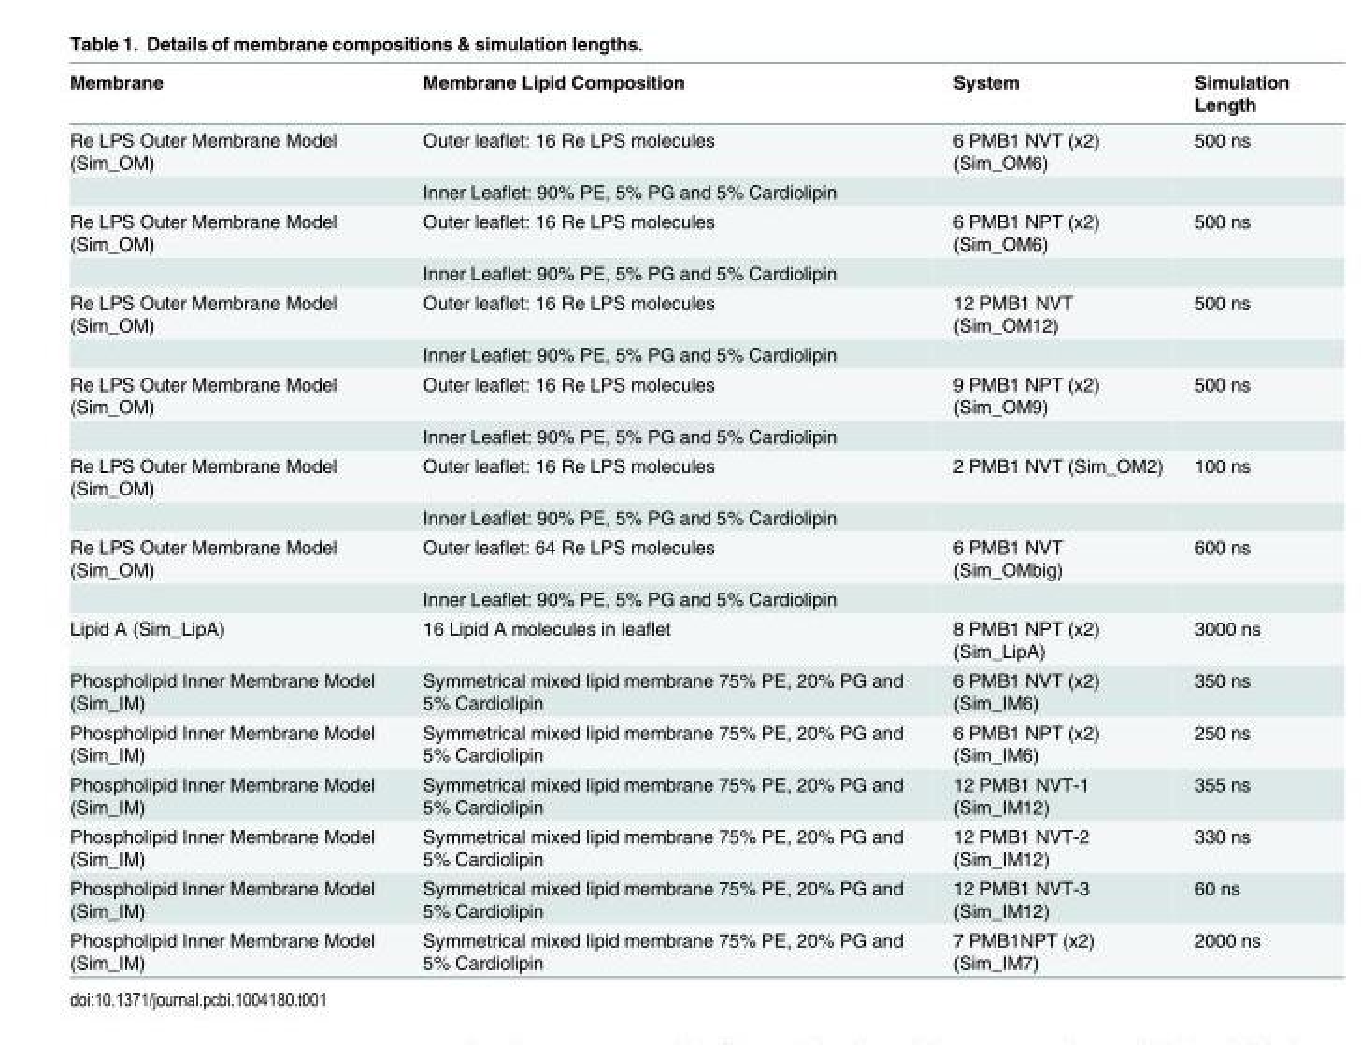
<table><thead><tr><td>Membrane</td><td>Membrane Lipid Composition</td><td>System</td><td>Simulation Length</td></tr></thead><tbody><tr><td rowspan="2">Re LPS Outer Membrane Model (Sim_OM)</td><td>Outer leaflet: 16 Re LPS molecules</td><td>6 PMB1 NVT (x2) (Sim_OM6)</td><td>500 ns</td></tr><tr><td>Inner Leaflet: 90% PE, 5% PG and 5% Cardiolipin</td><td></td><td></td></tr><tr><td rowspan="2">Re LPS Outer Membrane Model (Sim_OM)</td><td>Outer leaflet: 16 Re LPS molecules</td><td>6 PMB1 NPT (x2) (Sim_OM6)</td><td>500 ns</td></tr><tr><td>Inner Leaflet: 90% PE, 5% PG and 5% Cardiolipin</td><td></td><td></td></tr><tr><td rowspan="2">Re LPS Outer Membrane Model (Sim_OM)</td><td>Outer leaflet: 16 Re LPS molecules</td><td>12 PMB1 NVT (Sim_OM12)</td><td>500 ns</td></tr><tr><td>Inner Leaflet: 90% PE, 5% PG and 5% Cardiolipin</td><td></td><td></td></tr><tr><td rowspan="2">Re LPS Outer Membrane Model (Sim_OM)</td><td>Outer leaflet: 16 Re LPS molecules</td><td>9 PMB1 NPT (x2) (Sim_OM9)</td><td>500 ns</td></tr><tr><td>Inner Leaflet: 90% PE, 5% PG and 5% Cardiolipin</td><td></td><td></td></tr><tr><td rowspan="2">Re LPS Outer Membrane Model (Sim_OM)</td><td>Outer leaflet: 16 Re LPS molecules</td><td>2 PMB1 NVT (Sim_OM2)</td><td>100 ns</td></tr><tr><td>Inner Leaflet: 90% PE, 5% PG and 5% Cardiolipin</td><td></td><td></td></tr><tr><td rowspan="2">Re LPS Outer Membrane Model (Sim_OM)</td><td>Outer leaflet: 64 Re LPS molecules</td><td>6 PMB1 NVT (Sim_OMbig)</td><td>600 ns</td></tr><tr><td>Inner Leaflet: 90% PE, 5% PG and 5% Cardiolipin</td><td></td><td></td></tr><tr><td>Lipid A (Sim_LipA)</td><td>16 Lipid A molecules in leaflet</td><td>8 PMB1 NPT (x2) (Sim_LipA)</td><td>3000 ns</td></tr><tr><td>Phospholipid Inner Membrane Model (Sim_IM)</td><td>Symmetrical mixed lipid membrane 75% PE, 20% PG and 5% Cardiolipin</td><td>6 PMB1 NVT (x2) (Sim_IM6)</td><td>350 ns</td></tr><tr><td>Phospholipid Inner Membrane Model (Sim_IM)</td><td>Symmetrical mixed lipid membrane 75% PE, 20% PG and 5% Cardiolipin</td><td>6 PMB1 NPT (x2) (Sim_IM6)</td><td>250 ns</td></tr><tr><td>Phospholipid Inner Membrane Model (Sim_IM)</td><td>Symmetrical mixed lipid membrane 75% PE, 20% PG and 5% Cardiolipin</td><td>12 PMB1 NVT-1 (Sim_IM12)</td><td>355 ns</td></tr><tr><td>Phospholipid Inner Membrane Model (Sim_IM)</td><td>Symmetrical mixed lipid membrane 75% PE, 20% PG and 5% Cardiolipin</td><td>12 PMB1 NVT-2 (Sim_IM12)</td><td>330 ns</td></tr><tr><td>Phospholipid Inner Membrane Model (Sim_IM)</td><td>Symmetrical mixed lipid membrane 75% PE, 20% PG and 5% Cardiolipin</td><td>12 PMB1 NVT-3 (Sim_IM12)</td><td>60 ns</td></tr><tr><td>Phospholipid Inner Membrane Model (Sim_IM)</td><td>Symmetrical mixed lipid membrane 75% PE, 20% PG and 5% Cardiolipin</td><td>7 PMB1NPT (x2) (Sim_IM7)</td><td>2000 ns</td></tr></tbody></table>